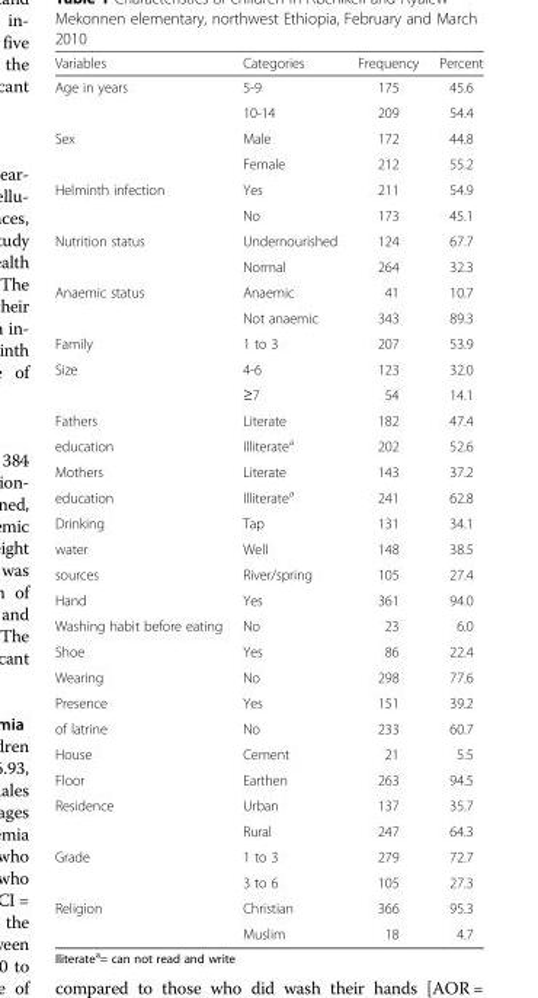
<table><thead><tr><td>Variables</td><td>Categories</td><td>Frequency</td><td>Percent</td></tr></thead><tbody><tr><td rowspan="2">Age in years</td><td>5-9</td><td>175</td><td>45.6</td></tr><tr><td>10-14</td><td>209</td><td>54.4</td></tr><tr><td rowspan="2">Sex</td><td>Male</td><td>172</td><td>44.8</td></tr><tr><td>Female</td><td>212</td><td>55.2</td></tr><tr><td rowspan="2">Helminth infection</td><td>Yes</td><td>211</td><td>54.9</td></tr><tr><td>No</td><td>173</td><td>45.1</td></tr><tr><td rowspan="2">Nutrition status</td><td>Undernourished</td><td>124</td><td>67.7</td></tr><tr><td>Normal</td><td>264</td><td>32.3</td></tr><tr><td rowspan="2">Anaemic status</td><td>Anaemic</td><td>41</td><td>10.7</td></tr><tr><td>Not anaemic</td><td>343</td><td>89.3</td></tr><tr><td>Family</td><td>1 to 3</td><td>207</td><td>53.9</td></tr><tr><td rowspan="2">Size</td><td>4-6</td><td>123</td><td>32.0</td></tr><tr><td>≥7</td><td>54</td><td>14.1</td></tr><tr><td>Fathers</td><td>Literate</td><td>182</td><td>47.4</td></tr><tr><td>education</td><td>Illiterate<sup>a</sup></td><td>202</td><td>52.6</td></tr><tr><td>Mothers</td><td>Literate</td><td>143</td><td>37.2</td></tr><tr><td>education</td><td>Illiterate<sup>a</sup></td><td>241</td><td>62.8</td></tr><tr><td>Drinking</td><td>Tap</td><td>131</td><td>34.1</td></tr><tr><td>water</td><td>Well</td><td>148</td><td>38.5</td></tr><tr><td>sources</td><td>River/spring</td><td>105</td><td>27.4</td></tr><tr><td>Hand</td><td>Yes</td><td>361</td><td>94.0</td></tr><tr><td>Washing habit before eating</td><td>No</td><td>23</td><td>6.0</td></tr><tr><td>Shoe</td><td>Yes</td><td>86</td><td>22.4</td></tr><tr><td>Wearing</td><td>No</td><td>298</td><td>77.6</td></tr><tr><td>Presence</td><td>Yes</td><td>151</td><td>39.2</td></tr><tr><td>of latrine</td><td>No</td><td>233</td><td>60.7</td></tr><tr><td>House</td><td>Cement</td><td>21</td><td>5.5</td></tr><tr><td>Floor</td><td>Earthen</td><td>263</td><td>94.5</td></tr><tr><td rowspan="2">Residence</td><td>Urban</td><td>137</td><td>35.7</td></tr><tr><td>Rural</td><td>247</td><td>64.3</td></tr><tr><td rowspan="2">Grade</td><td>1 to 3</td><td>279</td><td>72.7</td></tr><tr><td>3 to 6</td><td>105</td><td>27.3</td></tr><tr><td rowspan="2">Religion</td><td>Christian</td><td>366</td><td>95.3</td></tr><tr><td>Muslim</td><td>18</td><td>4.7</td></tr></tbody></table>